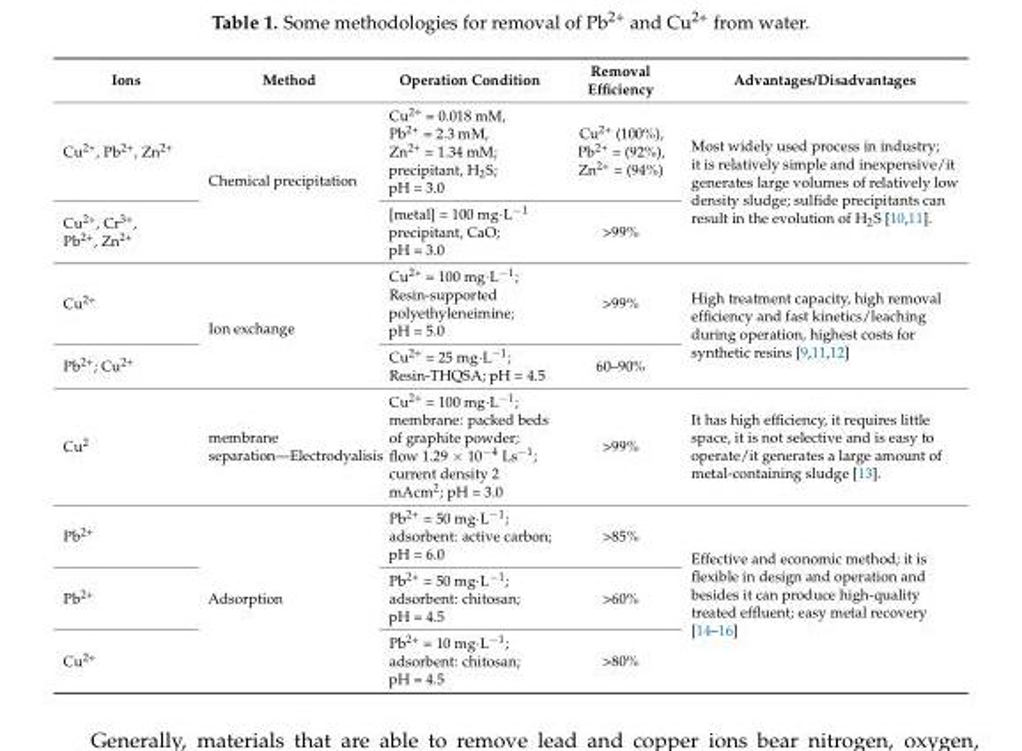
<table><thead><tr><td>Ions</td><td>Method</td><td>Operation Condition</td><td>Removal Efficiency</td><td>Advantages/Disadvantages</td></tr></thead><tbody><tr><td>Cu2+, Pb2+, Zn2+</td><td rowspan="2">Chemical precipitation</td><td>Cu2+ = 0.018 mM, Pb2+ = 2.3 mM, Zn2+ = 1.34 mM; precipitant, H2S; pH = 3.0</td><td>Cu2+ (100%), Pb2+ = (92%), Zn2+ = (94%)</td><td rowspan="2">Most widely used process in industry; it is relatively simple and inexpensive/it generates large volumes of relatively low density sludge; sulfide precipitants can result in the evolution of H2S [10,11].</td></tr><tr><td>Cu2+, Cr3+, Pb2+, Zn2+</td><td>[metal] = 100 mg·L−1 precipitant, CaO; pH = 3.0</td><td>&gt;99%</td></tr><tr><td>Cu2+</td><td rowspan="2">Ion exchange</td><td>Cu2+ = 100 mg·L−1; Resin-supported polyethyleneimine; pH = 5.0</td><td>&gt;99%</td><td rowspan="2">High treatment capacity, high removal efficiency and fast kinetics/leaching during operation, highest costs for synthetic resins [9,11,12]</td></tr><tr><td>Pb2+; Cu2+</td><td>Cu2+ = 25 mg·L−1; Resin-THQSA; pH = 4.5</td><td>60–90%</td></tr><tr><td>Cu2</td><td>membrane separation—Electrodyalisis</td><td>Cu2+ = 100 mg·L−1; membrane: packed beds of graphite powder; flow 1.29 × 10−4 Ls−1; current density 2 mAcm2; pH = 3.0</td><td>&gt;99%</td><td>It has high efficiency, it requires little space, it is not selective and is easy to operate/it generates a large amount of metal-containing sludge [13].</td></tr><tr><td>Pb2+</td><td rowspan="3">Adsorption</td><td>Pb2+ = 50 mg·L−1; adsorbent: active carbon; pH = 6.0</td><td>&gt;85%</td><td rowspan="3">Effective and economic method; it is flexible in design and operation and besides it can produce high-quality treated effluent; easy metal recovery [14–16]</td></tr><tr><td>Pb2+</td><td>Pb2+ = 50 mg·L−1; adsorbent: chitosan; pH = 4.5</td><td>&gt;60%</td></tr><tr><td>Cu2+</td><td>Pb2+ = 10 mg·L−1; adsorbent: chitosan; pH = 4.5</td><td>&gt;80%</td></tr></tbody></table>